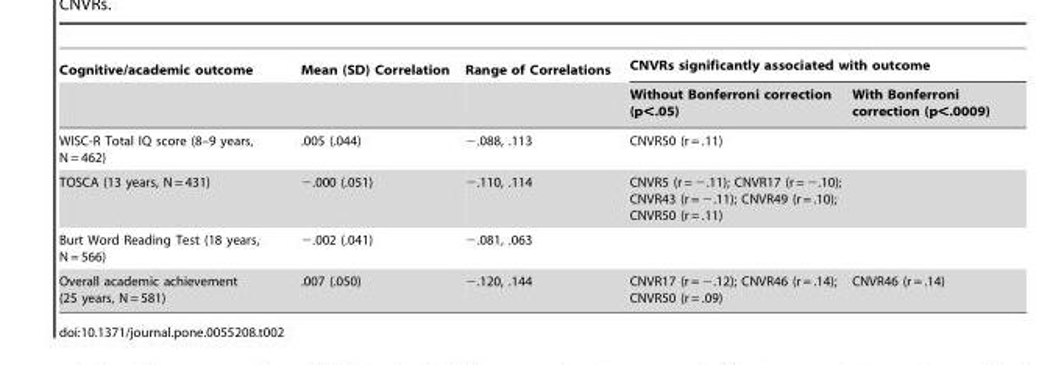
<table><thead><tr><td rowspan="2">Cognitive/academic outcome</td><td rowspan="2">Mean (SD) Correlation</td><td rowspan="2">Range of Correlations</td><td colspan="2">CNVRs significantly associated with outcome</td></tr><tr><td>Without Bonferroni correction (p&lt;.05)</td><td>With Bonferroni correction (p&lt;.0009)</td></tr></thead><tbody><tr><td>WISC-R Total IQ score (8–9 years, N = 462)</td><td>.005 (.044)</td><td>−.088, .113</td><td>CNVR50 (r = .11)</td><td></td></tr><tr><td>TOSCA (13 years, N = 431)</td><td>−.000 (.051)</td><td>−.110, .114</td><td>CNVR5 (r = −.11); CNVR17 (r = −.10); CNVR43 (r = −.11); CNVR49 (r = .10); CNVR50 (r = .11)</td><td></td></tr><tr><td>Burt Word Reading Test (18 years, N = 566)</td><td>−.002 (.041)</td><td>−.081, .063</td><td></td><td></td></tr><tr><td>Overall academic achievement (25 years, N = 581)</td><td>.007 (.050)</td><td>−.120, .144</td><td>CNVR17 (r = −.12); CNVR46 (r = .14); CNVR50 (r = .09)</td><td>CNVR46 (r = .14)</td></tr></tbody></table>